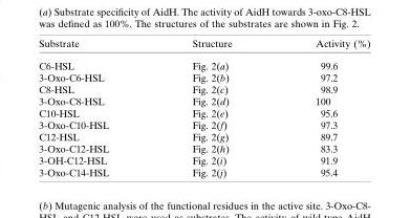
<table><thead><tr><td>Substrate</td><td>Structure</td><td>Activity (%)</td></tr></thead><tbody><tr><td>C6-HSL</td><td>Fig. 2(a)</td><td>99.6</td></tr><tr><td>3-Oxo-C6-HSL</td><td>Fig. 2(b)</td><td>97.2</td></tr><tr><td>C8-HSL</td><td>Fig. 2(c)</td><td>98.9</td></tr><tr><td>3-Oxo-C8-HSL</td><td>Fig. 2(d)</td><td>100</td></tr><tr><td>C10-HSL</td><td>Fig. 2(e)</td><td>95.6</td></tr><tr><td>3-Oxo-C10-HSL</td><td>Fig. 2(f)</td><td>97.3</td></tr><tr><td>C12-HSL</td><td>Fig. 2(g)</td><td>89.7</td></tr><tr><td>3-Oxo-C12-HSL</td><td>Fig. 2(h)</td><td>83.3</td></tr><tr><td>3-OH-C12-HSL</td><td>Fig. 2(i)</td><td>91.9</td></tr><tr><td>3-Oxo-C14-HSL</td><td>Fig. 2(j)</td><td>95.4</td></tr></tbody></table>